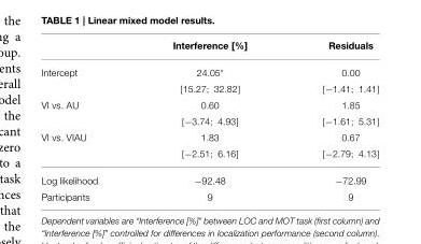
<table><thead><tr><td></td><td>Interference [%]</td><td>Residuals</td></tr></thead><tbody><tr><td rowspan="2">Intercept</td><td>24.05*</td><td>0.00</td></tr><tr><td>[15.27; 32.82]</td><td>[−1.41; 1.41]</td></tr><tr><td rowspan="2">VI vs. AU</td><td>0.60</td><td>1.85</td></tr><tr><td>[−3.74; 4.93]</td><td>[−1.61; 5.31]</td></tr><tr><td rowspan="2">VI vs. VIAU</td><td>1.83</td><td>0.67</td></tr><tr><td>[−2.51; 6.16]</td><td>[−2.79; 4.13]</td></tr><tr><td>Log likelihood</td><td>−92.48</td><td>−72.99</td></tr><tr><td>Participants</td><td>9</td><td>9</td></tr></tbody></table>